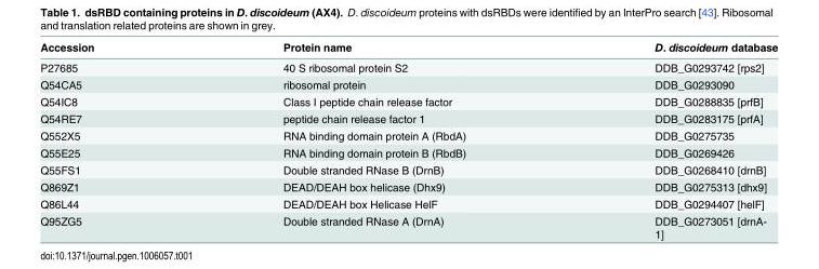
<table><thead><tr><td>Accession</td><td>Protein name</td><td>D. discoideum database</td></tr></thead><tbody><tr><td>P27685</td><td>40 S ribosomal protein S2</td><td>DDB_G0293742 [rps2]</td></tr><tr><td>Q54CA5</td><td>ribosomal protein</td><td>DDB_G0293090</td></tr><tr><td>Q54IC8</td><td>Class I peptide chain release factor</td><td>DDB_G0288835 [prfB]</td></tr><tr><td>Q54RE7</td><td>peptide chain release factor 1</td><td>DDB_G0283175 [prfA]</td></tr><tr><td>Q552X5</td><td>RNA binding domain protein A (RbdA)</td><td>DDB_G0275735</td></tr><tr><td>Q55E25</td><td>RNA binding domain protein B (RbdB)</td><td>DDB_G0269426</td></tr><tr><td>Q55FS1</td><td>Double stranded RNase B (DrnB)</td><td>DDB_G0268410 [drnB]</td></tr><tr><td>Q869Z1</td><td>DEAD/DEAH box helicase (Dhx9)</td><td>DDB_G0275313 [dhx9]</td></tr><tr><td>Q86L44</td><td>DEAD/DEAH box Helicase HelF</td><td>DDB_G0294407 [helF]</td></tr><tr><td>Q95ZG5</td><td>Double stranded RNase A (DrnA)</td><td>DDB_G0273051 [drnA-</td></tr></tbody></table>